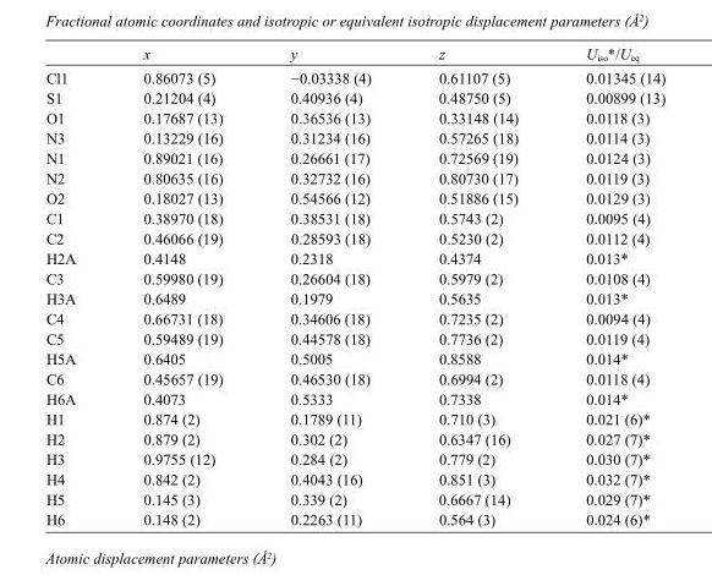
<table><thead><tr><td></td><td>x</td><td>y</td><td>z</td><td>U<sub>iso</sub>*/U<sub>eq</sub></td></tr></thead><tbody><tr><td>Cl1</td><td>0.86073 (5)</td><td>−0.03338 (4)</td><td>0.61107 (5)</td><td>0.01345 (14)</td></tr><tr><td>S1</td><td>0.21204 (4)</td><td>0.40936 (4)</td><td>0.48750 (5)</td><td>0.00899 (13)</td></tr><tr><td>O1</td><td>0.17687 (13)</td><td>0.36536 (13)</td><td>0.33148 (14)</td><td>0.0118 (3)</td></tr><tr><td>N3</td><td>0.13229 (16)</td><td>0.31234 (16)</td><td>0.57265 (18)</td><td>0.0114 (3)</td></tr><tr><td>N1</td><td>0.89021 (16)</td><td>0.26661 (17)</td><td>0.72569 (19)</td><td>0.0124 (3)</td></tr><tr><td>N2</td><td>0.80635 (16)</td><td>0.32732 (16)</td><td>0.80730 (17)</td><td>0.0119 (3)</td></tr><tr><td>O2</td><td>0.18027 (13)</td><td>0.54566 (12)</td><td>0.51886 (15)</td><td>0.0129 (3)</td></tr><tr><td>C1</td><td>0.38970 (18)</td><td>0.38531 (18)</td><td>0.5743 (2)</td><td>0.0095 (4)</td></tr><tr><td>C2</td><td>0.46066 (19)</td><td>0.28593 (18)</td><td>0.5230 (2)</td><td>0.0112 (4)</td></tr><tr><td>H2A</td><td>0.4148</td><td>0.2318</td><td>0.4374</td><td>0.013*</td></tr><tr><td>C3</td><td>0.59980 (19)</td><td>0.26604 (18)</td><td>0.5979 (2)</td><td>0.0108 (4)</td></tr><tr><td>H3A</td><td>0.6489</td><td>0.1979</td><td>0.5635</td><td>0.013*</td></tr><tr><td>C4</td><td>0.66731 (18)</td><td>0.34606 (18)</td><td>0.7235 (2)</td><td>0.0094 (4)</td></tr><tr><td>C5</td><td>0.59489 (19)</td><td>0.44578 (18)</td><td>0.7736 (2)</td><td>0.0119 (4)</td></tr><tr><td>H5A</td><td>0.6405</td><td>0.5005</td><td>0.8588</td><td>0.014*</td></tr><tr><td>C6</td><td>0.45657 (19)</td><td>0.46530 (18)</td><td>0.6994 (2)</td><td>0.0118 (4)</td></tr><tr><td>H6A</td><td>0.4073</td><td>0.5333</td><td>0.7338</td><td>0.014*</td></tr><tr><td>H1</td><td>0.874 (2)</td><td>0.1789 (11)</td><td>0.710 (3)</td><td>0.021 (6)*</td></tr><tr><td>H2</td><td>0.879 (2)</td><td>0.302 (2)</td><td>0.6347 (16)</td><td>0.027 (7)*</td></tr><tr><td>H3</td><td>0.9755 (12)</td><td>0.284 (2)</td><td>0.779 (2)</td><td>0.030 (7)*</td></tr><tr><td>H4</td><td>0.842 (2)</td><td>0.4043 (16)</td><td>0.851 (3)</td><td>0.032 (7)*</td></tr><tr><td>H5</td><td>0.145 (3)</td><td>0.339 (2)</td><td>0.6667 (14)</td><td>0.029 (7)*</td></tr><tr><td>H6</td><td>0.148 (2)</td><td>0.2263 (11)</td><td>0.564 (3)</td><td>0.024 (6)*</td></tr></tbody></table>